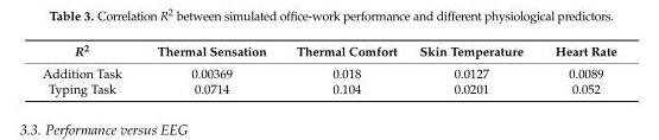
<table><thead><tr><td>R<sup>2</sup></td><td>Thermal Sensation</td><td>Thermal Comfort</td><td>Skin Temperature</td><td>Heart Rate</td></tr></thead><tbody><tr><td>Addition Task</td><td>0.00369</td><td>0.018</td><td>0.0127</td><td>0.0089</td></tr><tr><td>Typing Task</td><td>0.0714</td><td>0.104</td><td>0.0201</td><td>0.052</td></tr></tbody></table>